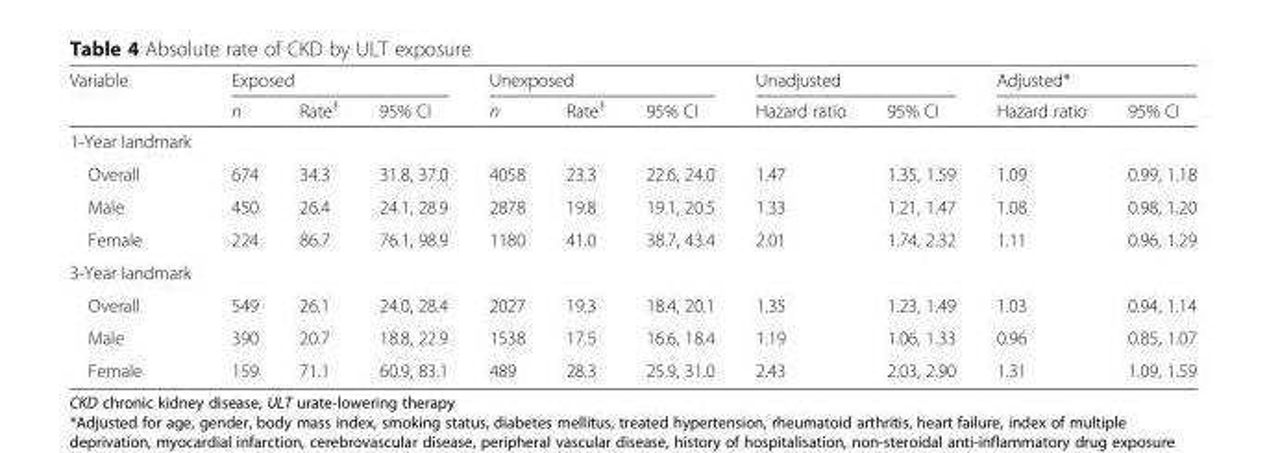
<table><thead><tr><td rowspan="2">Variable</td><td colspan="3">Exposed</td><td colspan="3">Unexposed</td><td colspan="2">Unadjusted</td><td colspan="2">Adjusted*</td></tr><tr><td>n</td><td>Rate<sup>‡</sup></td><td>95% CI</td><td>n</td><td>Rate<sup>‡</sup></td><td>95% CI</td><td>Hazard ratio</td><td>95% CI</td><td>Hazard ratio</td><td>95% CI</td></tr></thead><tbody><tr><td colspan="11">1-Year landmark</td></tr><tr><td>Overall</td><td>674</td><td>34.3</td><td>31.8, 37.0</td><td>4058</td><td>23.3</td><td>22.6, 24.0</td><td>1.47</td><td>1.35, 1.59</td><td>1.09</td><td>0.99, 1.18</td></tr><tr><td>Male</td><td>450</td><td>26.4</td><td>24.1, 28.9</td><td>2878</td><td>19.8</td><td>19.1, 20.5</td><td>1.33</td><td>1.21, 1.47</td><td>1.08</td><td>0.98, 1.20</td></tr><tr><td>Female</td><td>224</td><td>86.7</td><td>76.1, 98.9</td><td>1180</td><td>41.0</td><td>38.7, 43.4</td><td>2.01</td><td>1.74, 2.32</td><td>1.11</td><td>0.96, 1.29</td></tr><tr><td colspan="11">3-Year landmark</td></tr><tr><td>Overall</td><td>549</td><td>26.1</td><td>24.0, 28.4</td><td>2027</td><td>19.3</td><td>18.4, 20.1</td><td>1.35</td><td>1.23, 1.49</td><td>1.03</td><td>0.94, 1.14</td></tr><tr><td>Male</td><td>390</td><td>20.7</td><td>18.8, 22.9</td><td>1538</td><td>17.5</td><td>16.6, 18.4</td><td>1.19</td><td>1.06, 1.33</td><td>0.96</td><td>0.85, 1.07</td></tr><tr><td>Female</td><td>159</td><td>71.1</td><td>60.9, 83.1</td><td>489</td><td>28.3</td><td>25.9, 31.0</td><td>2.43</td><td>2.03, 2.90</td><td>1.31</td><td>1.09, 1.59</td></tr></tbody></table>